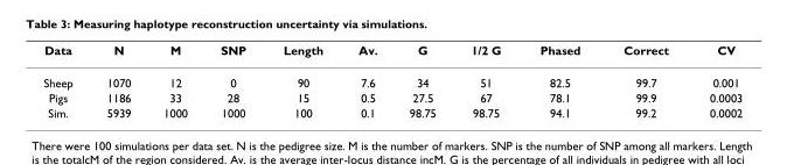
<table><thead><tr><td>Data</td><td>N</td><td>M</td><td>SNP</td><td>Length</td><td>Av.</td><td>G</td><td>1/2 G</td><td>Phased</td><td>Correct</td><td>CV</td></tr></thead><tbody><tr><td>Sheep</td><td>1070</td><td>12</td><td>0</td><td>90</td><td>7.6</td><td>34</td><td>51</td><td>82.5</td><td>99.7</td><td>0.001</td></tr><tr><td>Pigs</td><td>1186</td><td>33</td><td>28</td><td>15</td><td>0.5</td><td>27.5</td><td>67</td><td>78.1</td><td>99.9</td><td>0.0003</td></tr><tr><td>Sim.</td><td>5939</td><td>1000</td><td>1000</td><td>100</td><td>0.1</td><td>98.75</td><td>98.75</td><td>94.1</td><td>99.2</td><td>0.0002</td></tr></tbody></table>